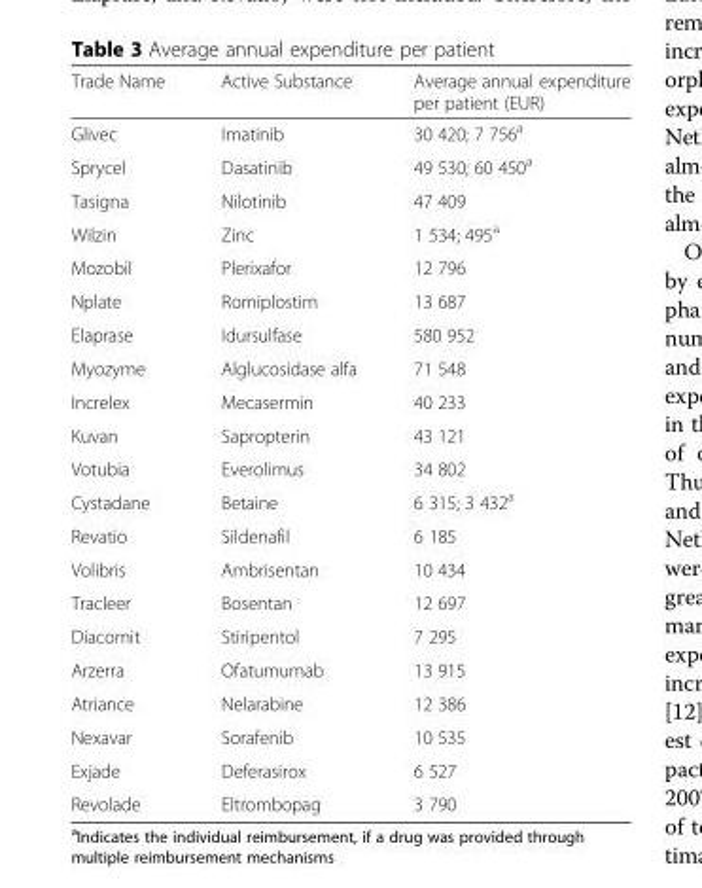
<table><thead><tr><td>Trade Name</td><td>Active Substance</td><td>Average annual expenditure per patient (EUR)</td></tr></thead><tbody><tr><td>Glivec</td><td>Imatinib</td><td>30 420; 7 756<sup>a</sup></td></tr><tr><td>Sprycel</td><td>Dasatinib</td><td>49 530; 60 450<sup>a</sup></td></tr><tr><td>Tasigna</td><td>Nilotinib</td><td>47 409</td></tr><tr><td>Wilzin</td><td>Zinc</td><td>1 534; 495<sup>a</sup></td></tr><tr><td>Mozobil</td><td>Plerixafor</td><td>12 796</td></tr><tr><td>Nplate</td><td>Romiplostim</td><td>13 687</td></tr><tr><td>Elaprase</td><td>Idursulfase</td><td>580 952</td></tr><tr><td>Myozyme</td><td>Alglucosidase alfa</td><td>71 548</td></tr><tr><td>Increlex</td><td>Mecasermin</td><td>40 233</td></tr><tr><td>Kuvan</td><td>Sapropterin</td><td>43 121</td></tr><tr><td>Votubia</td><td>Everolimus</td><td>34 802</td></tr><tr><td>Cystadane</td><td>Betaine</td><td>6 315; 3 432<sup>a</sup></td></tr><tr><td>Revatio</td><td>Sildenafil</td><td>6 185</td></tr><tr><td>Volibris</td><td>Ambrisentan</td><td>10 434</td></tr><tr><td>Tracleer</td><td>Bosentan</td><td>12 697</td></tr><tr><td>Diacomit</td><td>Stiripentol</td><td>7 295</td></tr><tr><td>Arzerra</td><td>Ofatumumab</td><td>13 915</td></tr><tr><td>Atriance</td><td>Nelarabine</td><td>12 386</td></tr><tr><td>Nexavar</td><td>Sorafenib</td><td>10 535</td></tr><tr><td>Exjade</td><td>Deferasirox</td><td>6 527</td></tr><tr><td>Revolade</td><td>Eltrombopag</td><td>3 790</td></tr></tbody></table>